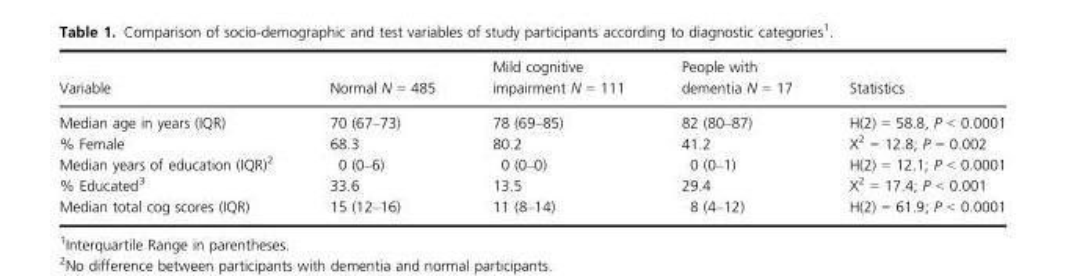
<table><thead><tr><td>Variable</td><td>Normal N = 485</td><td>Mild cognitive impairment N = 111</td><td>People with dementia N = 17</td><td>Statistics</td></tr></thead><tbody><tr><td>Median age in years (IQR)</td><td>70 (67–73)</td><td>78 (69–85)</td><td>82 (80–87)</td><td>H(2) = 58.8, P &lt; 0.0001</td></tr><tr><td>% Female</td><td>68.3</td><td>80.2</td><td>41.2</td><td>X<sup>2</sup> = 12.8; P = 0.002</td></tr><tr><td>Median years of education (IQR)2</td><td>0 (0–6)</td><td>0 (0–0)</td><td>0 (0–1)</td><td>H(2) = 12.1; P &lt; 0.0001</td></tr><tr><td>% Educated3</td><td>33.6</td><td>13.5</td><td>29.4</td><td>X<sup>2</sup> = 17.4; P &lt; 0.001</td></tr><tr><td>Median total cog scores (IQR)</td><td>15 (12–16)</td><td>11 (8–14)</td><td>8 (4–12)</td><td>H(2) = 61.9; P &lt; 0.0001</td></tr></tbody></table>